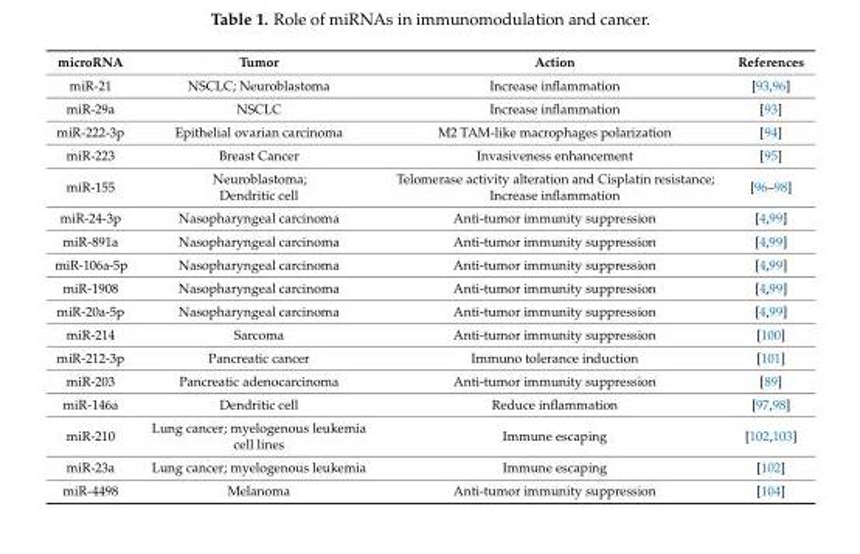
<table><thead><tr><td>microRNA</td><td>Tumor</td><td>Action</td><td>References</td></tr></thead><tbody><tr><td>miR-21</td><td>NSCLC; Neuroblastoma</td><td>Increase inflammation</td><td>[93,96]</td></tr><tr><td>miR-29a</td><td>NSCLC</td><td>Increase inflammation</td><td>[93]</td></tr><tr><td>miR-222-3p</td><td>Epithelial ovarian carcinoma</td><td>M2 TAM-like macrophages polarization</td><td>[94]</td></tr><tr><td>miR-223</td><td>Breast Cancer</td><td>Invasiveness enhancement</td><td>[95]</td></tr><tr><td>miR-155</td><td>Neuroblastoma; Dendritic cell</td><td>Telomerase activity alteration and Cisplatin resistance; Increase inflammation</td><td>[96–98]</td></tr><tr><td>miR-24-3p</td><td>Nasopharyngeal carcinoma</td><td>Anti-tumor immunity suppression</td><td>[4,99]</td></tr><tr><td>miR-891a</td><td>Nasopharyngeal carcinoma</td><td>Anti-tumor immunity suppression</td><td>[4,99]</td></tr><tr><td>miR-106a-5p</td><td>Nasopharyngeal carcinoma</td><td>Anti-tumor immunity suppression</td><td>[4,99]</td></tr><tr><td>miR-1908</td><td>Nasopharyngeal carcinoma</td><td>Anti-tumor immunity suppression</td><td>[4,99]</td></tr><tr><td>miR-20a-5p</td><td>Nasopharyngeal carcinoma</td><td>Anti-tumor immunity suppression</td><td>[4,99]</td></tr><tr><td>miR-214</td><td>Sarcoma</td><td>Anti-tumor immunity suppression</td><td>[100]</td></tr><tr><td>miR-212-3p</td><td>Pancreatic cancer</td><td>Immuno tolerance induction</td><td>[101]</td></tr><tr><td>miR-203</td><td>Pancreatic adenocarcinoma</td><td>Anti-tumor immunity suppression</td><td>[89]</td></tr><tr><td>miR-146a</td><td>Dendritic cell</td><td>Reduce inflammation</td><td>[97,98]</td></tr><tr><td>miR-210</td><td>Lung cancer; myelogenous leukemia cell lines</td><td>Immune escaping</td><td>[102,103]</td></tr><tr><td>miR-23a</td><td>Lung cancer; myelogenous leukemia</td><td>Immune escaping</td><td>[102]</td></tr><tr><td>miR-4498</td><td>Melanoma</td><td>Anti-tumor immunity suppression</td><td>[104]</td></tr></tbody></table>